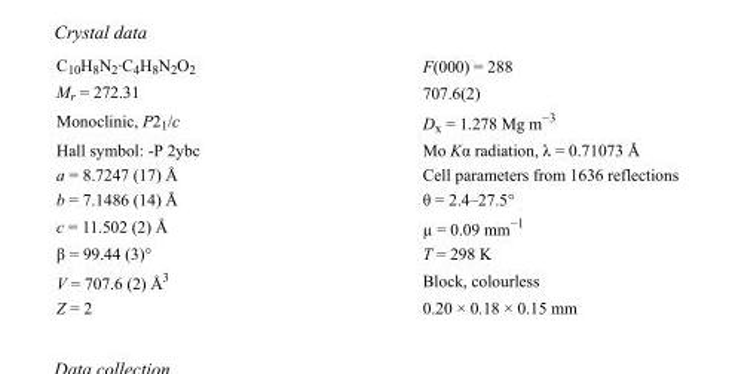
<table><tbody><tr><td>C<sub>10</sub>H<sub>8</sub>N<sub>2</sub>·C<sub>4</sub>H<sub>8</sub>N<sub>2</sub>O<sub>2</sub></td><td>F(000) = 288</td></tr><tr><td>M<sub>r</sub> = 272.31</td><td>707.6(2)</td></tr><tr><td>Monoclinic, P2<sub>1</sub>/c</td><td>D<sub>x</sub> = 1.278 Mg m<sup>−3</sup></td></tr><tr><td>Hall symbol: -P 2ybc</td><td>Mo Kα radiation, λ = 0.71073 Å</td></tr><tr><td>a = 8.7247 (17) Å</td><td>Cell parameters from 1636 reflections</td></tr><tr><td>b = 7.1486 (14) Å</td><td>θ = 2.4–27.5°</td></tr><tr><td>c = 11.502 (2) Å</td><td>µ = 0.09 mm<sup>−1</sup></td></tr><tr><td>β = 99.44 (3)°</td><td>T = 298 K</td></tr><tr><td>V = 707.6 (2) Å<sup>3</sup></td><td>Block, colourless</td></tr><tr><td>Z = 2</td><td>0.20 × 0.18 × 0.15 mm</td></tr></tbody></table>